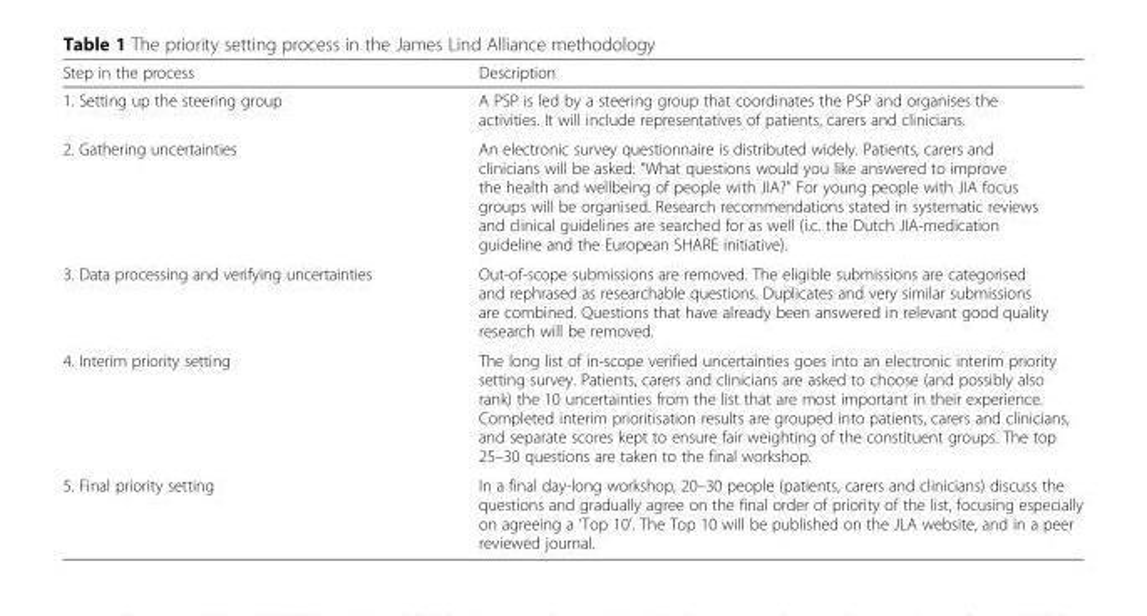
<table><thead><tr><td>Step in the process</td><td>Description</td></tr></thead><tbody><tr><td>1. Setting up the steering group</td><td>A PSP is led by a steering group that coordinates the PSP and organises the activities. It will include representatives of patients, carers and clinicians.</td></tr><tr><td>2. Gathering uncertainties</td><td>An electronic survey questionnaire is distributed widely. Patients, carers and clinicians will be asked: “What questions would you like answered to improve the health and wellbeing of people with JIA?” For young people with JIA focus groups will be organised. Research recommendations stated in systematic reviews and clinical guidelines are searched for as well (i.c. the Dutch JIA-medication guideline and the European SHARE initiative).</td></tr><tr><td>3. Data processing and verifying uncertainties</td><td>Out-of-scope submissions are removed. The eligible submissions are categorised and rephrased as researchable questions. Duplicates and very similar submissions are combined. Questions that have already been answered in relevant good quality research will be removed.</td></tr><tr><td>4. Interim priority setting</td><td>The long list of in-scope verified uncertainties goes into an electronic interim priority setting survey. Patients, carers and clinicians are asked to choose (and possibly also rank) the 10 uncertainties from the list that are most important in their experience. Completed interim prioritisation results are grouped into patients, carers and clinicians, and separate scores kept to ensure fair weighting of the constituent groups. The top 25–30 questions are taken to the final workshop.</td></tr><tr><td>5. Final priority setting</td><td>In a final day-long workshop, 20–30 people (patients, carers and clinicians) discuss the questions and gradually agree on the final order of priority of the list, focusing especially on agreeing a ‘Top 10’. The Top 10 will be published on the JLA website, and in a peer reviewed journal.</td></tr></tbody></table>